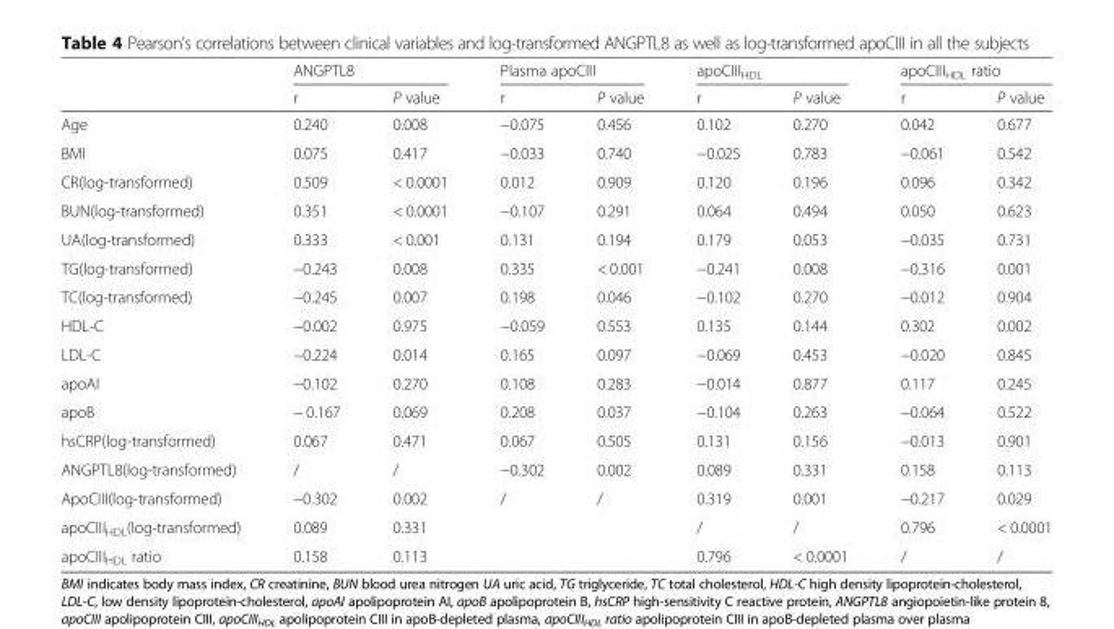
<table><thead><tr><td rowspan="2"></td><td colspan="2">ANGPTL8</td><td colspan="2">Plasma apoCIII</td><td colspan="2">apoCIII<sub>HDL</sub></td><td colspan="2">apoCIII<sub>HDL</sub> ratio</td></tr><tr><td>r</td><td>P value</td><td>r</td><td>P value</td><td>r</td><td>P value</td><td>r</td><td>P value</td></tr></thead><tbody><tr><td>Age</td><td>0.240</td><td>0.008</td><td>−0.075</td><td>0.456</td><td>0.102</td><td>0.270</td><td>0.042</td><td>0.677</td></tr><tr><td>BMI</td><td>0.075</td><td>0.417</td><td>−0.033</td><td>0.740</td><td>−0.025</td><td>0.783</td><td>−0.061</td><td>0.542</td></tr><tr><td>CR(log-transformed)</td><td>0.509</td><td>&lt; 0.0001</td><td>0.012</td><td>0.909</td><td>0.120</td><td>0.196</td><td>0.096</td><td>0.342</td></tr><tr><td>BUN(log-transformed)</td><td>0.351</td><td>&lt; 0.0001</td><td>−0.107</td><td>0.291</td><td>0.064</td><td>0.494</td><td>0.050</td><td>0.623</td></tr><tr><td>UA(log-transformed)</td><td>0.333</td><td>&lt; 0.001</td><td>0.131</td><td>0.194</td><td>0.179</td><td>0.053</td><td>−0.035</td><td>0.731</td></tr><tr><td>TG(log-transformed)</td><td>−0.243</td><td>0.008</td><td>0.335</td><td>&lt; 0.001</td><td>−0.241</td><td>0.008</td><td>−0.316</td><td>0.001</td></tr><tr><td>TC(log-transformed)</td><td>−0.245</td><td>0.007</td><td>0.198</td><td>0.046</td><td>−0.102</td><td>0.270</td><td>−0.012</td><td>0.904</td></tr><tr><td>HDL-C</td><td>−0.002</td><td>0.975</td><td>−0.059</td><td>0.553</td><td>0.135</td><td>0.144</td><td>0.302</td><td>0.002</td></tr><tr><td>LDL-C</td><td>−0.224</td><td>0.014</td><td>0.165</td><td>0.097</td><td>−0.069</td><td>0.453</td><td>−0.020</td><td>0.845</td></tr><tr><td>apoAI</td><td>−0.102</td><td>0.270</td><td>0.108</td><td>0.283</td><td>−0.014</td><td>0.877</td><td>0.117</td><td>0.245</td></tr><tr><td>apoB</td><td>− 0.167</td><td>0.069</td><td>0.208</td><td>0.037</td><td>−0.104</td><td>0.263</td><td>−0.064</td><td>0.522</td></tr><tr><td>hsCRP(log-transformed)</td><td>0.067</td><td>0.471</td><td>0.067</td><td>0.505</td><td>0.131</td><td>0.156</td><td>−0.013</td><td>0.901</td></tr><tr><td>ANGPTL8(log-transformed)</td><td>/</td><td>/</td><td>−0.302</td><td>0.002</td><td>0.089</td><td>0.331</td><td>0.158</td><td>0.113</td></tr><tr><td>ApoCIII(log-transformed)</td><td>−0.302</td><td>0.002</td><td>/</td><td>/</td><td>0.319</td><td>0.001</td><td>−0.217</td><td>0.029</td></tr><tr><td>apoCIII<sub>HDL</sub>(log-transformed)</td><td>0.089</td><td>0.331</td><td></td><td></td><td>/</td><td>/</td><td>0.796</td><td>&lt; 0.0001</td></tr><tr><td>apoCIII<sub>HDL</sub> ratio</td><td>0.158</td><td>0.113</td><td></td><td></td><td>0.796</td><td>&lt; 0.0001</td><td>/</td><td>/</td></tr></tbody></table>